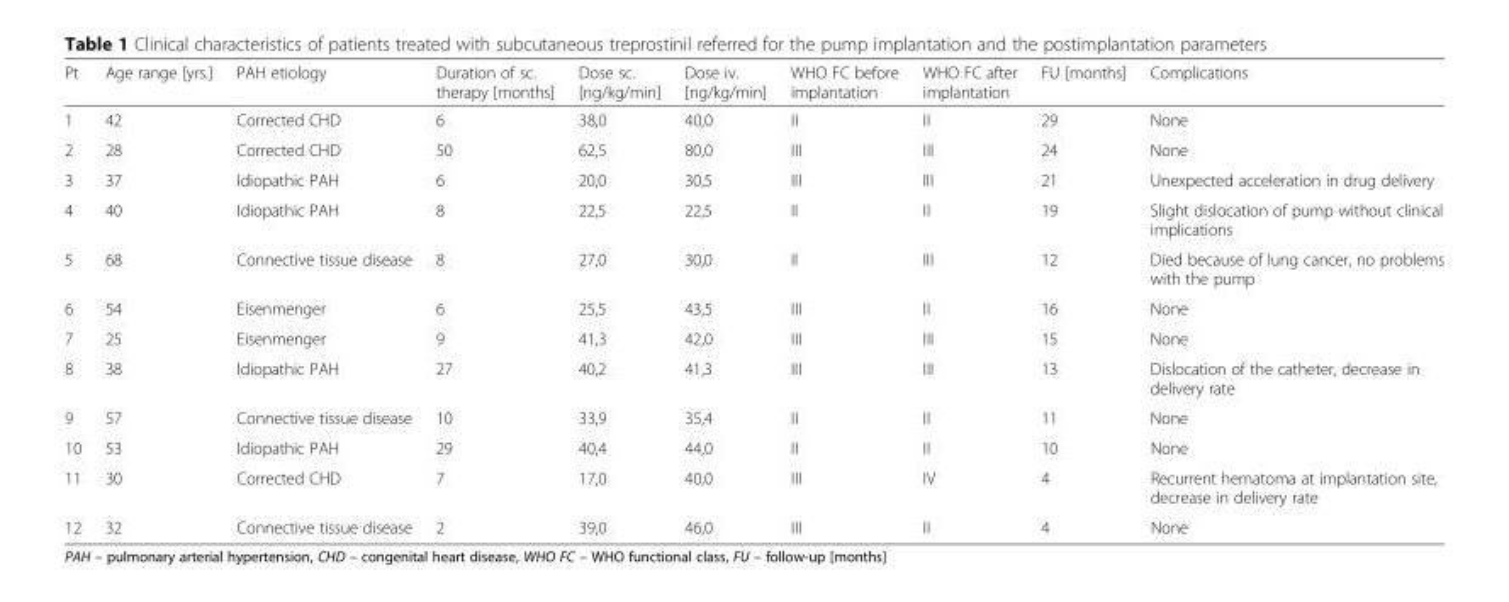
<table><thead><tr><td>Pt</td><td>Age range [yrs.]</td><td>PAH etiology</td><td>Duration of sc. therapy [months]</td><td>Dose sc. [ng/kg/min]</td><td>Dose iv. [ng/kg/min]</td><td>WHO FC before implantation</td><td>WHO FC after implantation</td><td>FU [months]</td><td>Complications</td></tr></thead><tbody><tr><td>1</td><td>42</td><td>Corrected CHD</td><td>6</td><td>38,0</td><td>40,0</td><td>II</td><td>II</td><td>29</td><td>None</td></tr><tr><td>2</td><td>28</td><td>Corrected CHD</td><td>50</td><td>62,5</td><td>80,0</td><td>III</td><td>III</td><td>24</td><td>None</td></tr><tr><td>3</td><td>37</td><td>Idiopathic PAH</td><td>6</td><td>20,0</td><td>30,5</td><td>III</td><td>III</td><td>21</td><td>Unexpected acceleration in drug delivery</td></tr><tr><td>4</td><td>40</td><td>Idiopathic PAH</td><td>8</td><td>22,5</td><td>22,5</td><td>II</td><td>II</td><td>19</td><td>Slight dislocation of pump without clinical implications</td></tr><tr><td>5</td><td>68</td><td>Connective tissue disease</td><td>8</td><td>27,0</td><td>30,0</td><td>II</td><td>III</td><td>12</td><td>Died because of lung cancer, no problems with the pump</td></tr><tr><td>6</td><td>54</td><td>Eisenmenger</td><td>6</td><td>25,5</td><td>43,5</td><td>III</td><td>II</td><td>16</td><td>None</td></tr><tr><td>7</td><td>25</td><td>Eisenmenger</td><td>9</td><td>41,3</td><td>42,0</td><td>III</td><td>III</td><td>15</td><td>None</td></tr><tr><td>8</td><td>38</td><td>Idiopathic PAH</td><td>27</td><td>40,2</td><td>41,3</td><td>III</td><td>III</td><td>13</td><td>Dislocation of the catheter, decrease in delivery rate</td></tr><tr><td>9</td><td>57</td><td>Connective tissue disease</td><td>10</td><td>33,9</td><td>35,4</td><td>II</td><td>II</td><td>11</td><td>None</td></tr><tr><td>10</td><td>53</td><td>Idiopathic PAH</td><td>29</td><td>40,4</td><td>44,0</td><td>II</td><td>II</td><td>10</td><td>None</td></tr><tr><td>11</td><td>30</td><td>Corrected CHD</td><td>7</td><td>17,0</td><td>40,0</td><td>III</td><td>IV</td><td>4</td><td>Recurrent hematoma at implantation site, decrease in delivery rate</td></tr><tr><td>12</td><td>32</td><td>Connective tissue disease</td><td>2</td><td>39,0</td><td>46,0</td><td>III</td><td>II</td><td>4</td><td>None</td></tr></tbody></table>